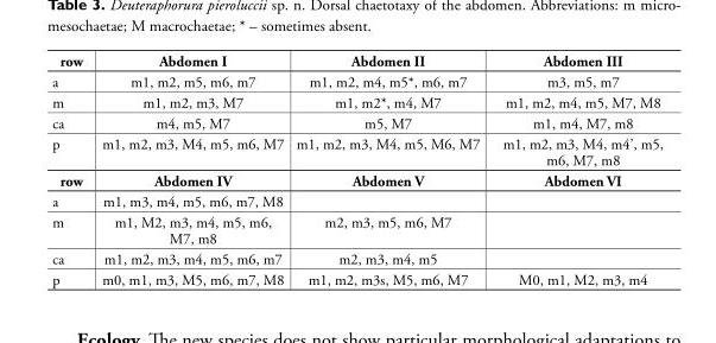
<table><thead><tr><td>row</td><td>Abdomen I</td><td>Abdomen II</td><td>Abdomen III</td></tr></thead><tbody><tr><td>a</td><td>m1, m2, m5, m6, m7</td><td>m1, m2, m4, m5*, m6, m7</td><td>m3, m5, m7</td></tr><tr><td>m</td><td>m1, m2, m3, M7</td><td>m1, m2*, m4, M7</td><td>m1, m2, m4, m5, M7, M8</td></tr><tr><td>ca</td><td>m4, m5, M7</td><td>m5, M7</td><td>m1, m4, M7, m8</td></tr><tr><td>p</td><td>m1, m2, m3, M4, m5, m6, M7</td><td>m1, m2, m3, M4, m5, M6, M7</td><td>m1, m2, m3, M4, m4’, m5, m6, M7, m8</td></tr><tr><td>row</td><td>Abdomen IV</td><td>Abdomen V</td><td>Abdomen VI</td></tr><tr><td>a</td><td>m1, m3, m4, m5, m6, m7, M8</td><td></td><td></td></tr><tr><td>m</td><td>m1, M2, m3, m4, m5, m6, M7, m8</td><td>m2, m3, m5, m6, M7</td><td></td></tr><tr><td>ca</td><td>m1, m2, m3, m4, m5, m6, m7</td><td>m2, m3, m4, m5</td><td></td></tr><tr><td>p</td><td>m0, m1, m3, M5, m6, m7, M8</td><td>m1, m2, m3s, M5, m6, M7</td><td>M0, m1, M2, m3, m4</td></tr></tbody></table>